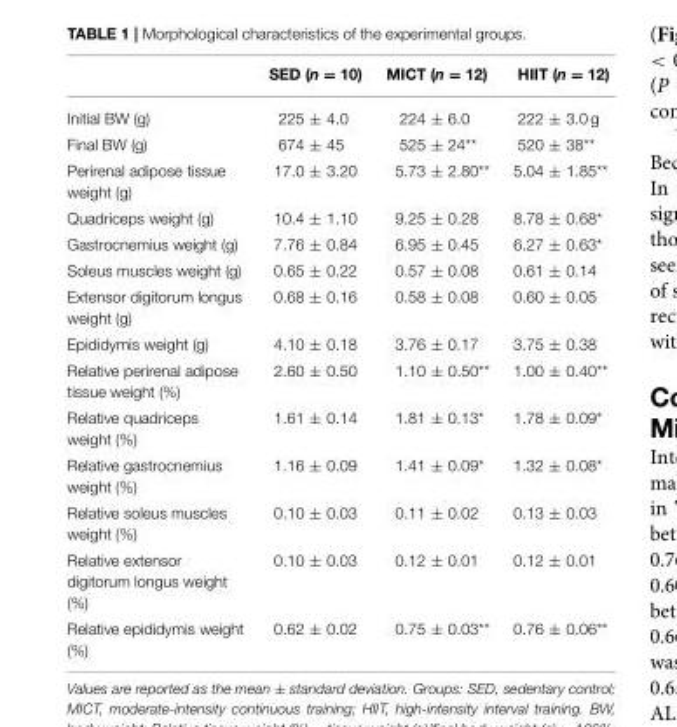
<table><thead><tr><td></td><td>SED (n = 10)</td><td>MICT (n = 12)</td><td>HIIT (n = 12)</td></tr></thead><tbody><tr><td>Initial BW (g)</td><td>225 ± 4.0</td><td>224 ± 6.0</td><td>222 ± 3.0 g</td></tr><tr><td>Final BW (g)</td><td>674 ± 45</td><td>525 ± 24**</td><td>520 ± 38**</td></tr><tr><td>Perirenal adipose tissue weight (g)</td><td>17.0 ± 3.20</td><td>5.73 ± 2.80**</td><td>5.04 ± 1.85**</td></tr><tr><td>Quadriceps weight (g)</td><td>10.4 ± 1.10</td><td>9.25 ± 0.28</td><td>8.78 ± 0.68*</td></tr><tr><td>Gastrocnemius weight (g)</td><td>7.76 ± 0.84</td><td>6.95 ± 0.45</td><td>6.27 ± 0.63*</td></tr><tr><td>Soleus muscles weight (g)</td><td>0.65 ± 0.22</td><td>0.57 ± 0.08</td><td>0.61 ± 0.14</td></tr><tr><td>Extensor digitorum longus weight (g)</td><td>0.68 ± 0.16</td><td>0.58 ± 0.08</td><td>0.60 ± 0.05</td></tr><tr><td>Epididymis weight (g)</td><td>4.10 ± 0.18</td><td>3.76 ± 0.17</td><td>3.75 ± 0.38</td></tr><tr><td>Relative perirenal adipose tissue weight (%)</td><td>2.60 ± 0.50</td><td>1.10 ± 0.50**</td><td>1.00 ± 0.40**</td></tr><tr><td>Relative quadriceps weight (%)</td><td>1.61 ± 0.14</td><td>1.81 ± 0.13*</td><td>1.78 ± 0.09*</td></tr><tr><td>Relative gastrocnemius weight (%)</td><td>1.16 ± 0.09</td><td>1.41 ± 0.09*</td><td>1.32 ± 0.08*</td></tr><tr><td>Relative soleus muscles weight (%)</td><td>0.10 ± 0.03</td><td>0.11 ± 0.02</td><td>0.13 ± 0.03</td></tr><tr><td>Relative extensor digitorum longus weight (%)</td><td>0.10 ± 0.03</td><td>0.12 ± 0.01</td><td>0.12 ± 0.01</td></tr><tr><td>Relative epididymis weight (%)</td><td>0.62 ± 0.02</td><td>0.75 ± 0.03**</td><td>0.76 ± 0.06**</td></tr></tbody></table>